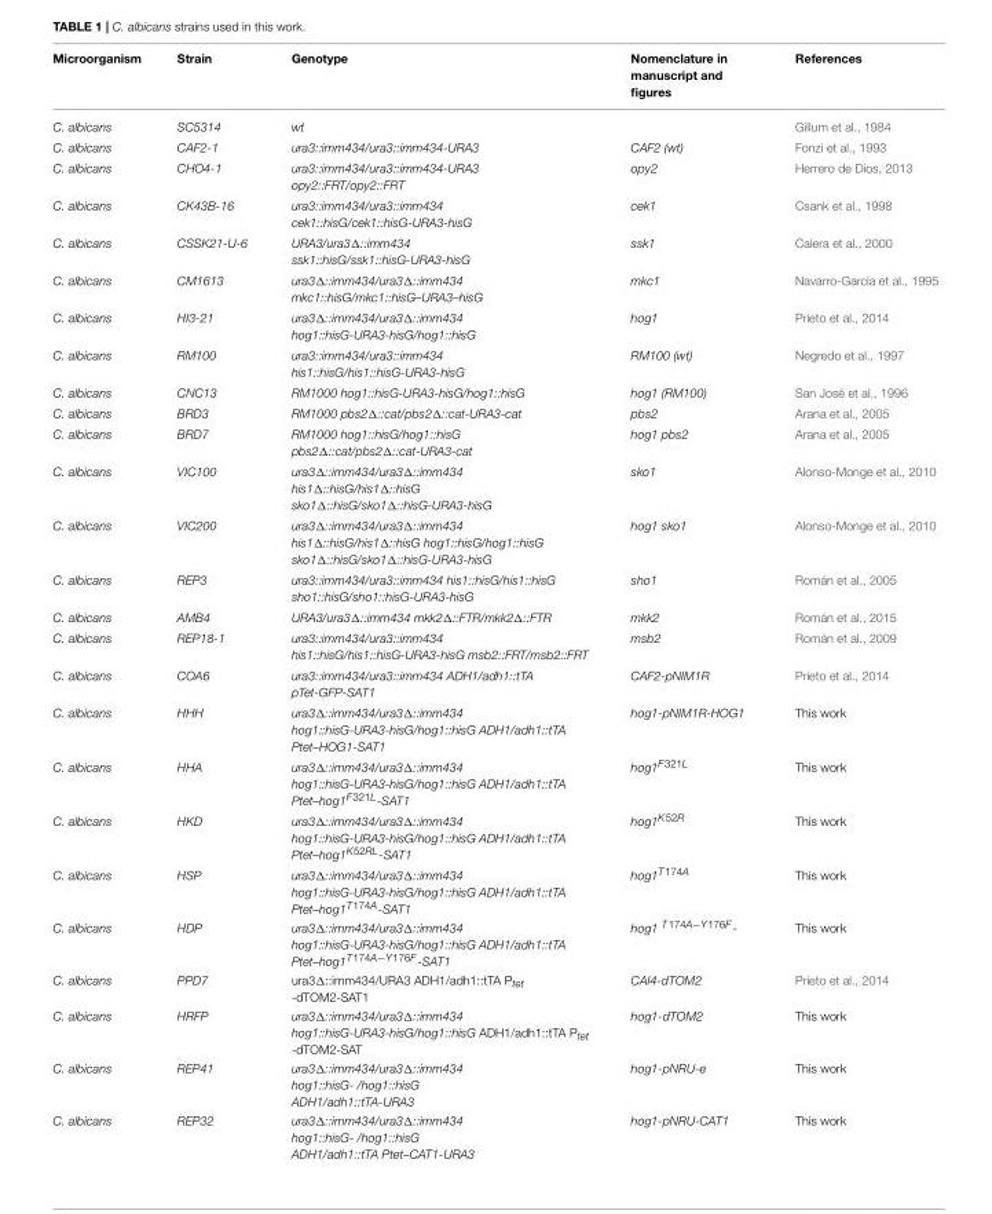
<table><thead><tr><td>Microorganism</td><td>Strain</td><td>Genotype</td><td>Nomenclature in manuscript and figures</td><td>References</td></tr></thead><tbody><tr><td>C. albicans</td><td>SC5314</td><td>wt</td><td></td><td>Gillum et al., 1984</td></tr><tr><td>C. albicans</td><td>CAF2-1</td><td>ura3::imm434/ura3::imm434-URA3</td><td>CAF2 (wt)</td><td>Fonzi et al., 1993</td></tr><tr><td>C. albicans</td><td>CHO4-1</td><td>ura3::imm434/ura3::imm434-URA3 opy2::FRT/opy2::FRT</td><td>opy2</td><td>Herrero de Dios, 2013</td></tr><tr><td>C. albicans</td><td>CK43B-16</td><td>ura3::imm434/ura3::imm434 cek1::hisG/cek1::hisG-URA3-hisG</td><td>cek1</td><td>Csank et al., 1998</td></tr><tr><td>C. albicans</td><td>CSSK21-U-6</td><td>URA3/ura3Δ::imm434 ssk1::hisG/ssk1::hisG-URA3-hisG</td><td>ssk1</td><td>Calera et al., 2000</td></tr><tr><td>C. albicans</td><td>CM1613</td><td>ura3Δ::imm434/ura3Δ::imm434 mkc1::hisG/mkc1::hisG–URA3–hisG</td><td>mkc1</td><td>Navarro-García et al., 1995</td></tr><tr><td>C. albicans</td><td>HI3-21</td><td>ura3Δ::imm434/ura3Δ::imm434 hog1::hisG-URA3-hisG/hog1::hisG</td><td>hog1</td><td>Prieto et al., 2014</td></tr><tr><td>C. albicans</td><td>RM100</td><td>ura3::imm434/ura3::imm434 his1::hisG/his1::hisG-URA3-hisG</td><td>RM100 (wt)</td><td>Negredo et al., 1997</td></tr><tr><td>C. albicans</td><td>CNC13</td><td>RM1000 hog1::hisG-URA3-hisG/hog1::hisG</td><td>hog1 (RM100)</td><td>San José et al., 1996</td></tr><tr><td>C. albicans</td><td>BRD3</td><td>RM1000 pbs2Δ::cat/pbs2Δ::cat-URA3-cat</td><td>pbs2</td><td>Arana et al., 2005</td></tr><tr><td>C. albicans</td><td>BRD7</td><td>RM1000 hog1::hisG/hog1::hisG pbs2Δ::cat/pbs2Δ::cat-URA3-cat</td><td>hog1 pbs2</td><td>Arana et al., 2005</td></tr><tr><td>C. albicans</td><td>VIC100</td><td>ura3Δ::imm434/ura3Δ::imm434 his1Δ::hisG/his1Δ::hisG sko1Δ::hisG/sko1Δ::hisG-URA3-hisG</td><td>sko1</td><td>Alonso-Monge et al., 2010</td></tr><tr><td>C. albicans</td><td>VIC200</td><td>ura3Δ::imm434/ura3Δ::imm434 his1Δ::hisG/his1Δ::hisG hog1::hisG/hog1::hisG sko1Δ::hisG/sko1Δ::hisG-URA3-hisG</td><td>hog1 sko1</td><td>Alonso-Monge et al., 2010</td></tr><tr><td>C. albicans</td><td>REP3</td><td>ura3::imm434/ura3::imm434 his1::hisG/his1::hisG sho1::hisG/sho1::hisG-URA3-hisG</td><td>sho1</td><td>Román et al., 2005</td></tr><tr><td>C. albicans</td><td>AMB4</td><td>URA3/ura3Δ::imm434 mkk2Δ::FTR/mkk2Δ::FTR</td><td>mkk2</td><td>Román et al., 2015</td></tr><tr><td>C. albicans</td><td>REP18-1</td><td>ura3::imm434/ura3::imm434 his1::hisG/his1::hisG-URA3-hisG msb2::FRT/msb2::FRT</td><td>msb2</td><td>Román et al., 2009</td></tr><tr><td>C. albicans</td><td>COA6</td><td>ura3::imm434/ura3::imm434 ADH1/adh1::tTA pTet-GFP-SAT1</td><td>CAF2-pNIM1R</td><td>Prieto et al., 2014</td></tr><tr><td>C. albicans</td><td>HHH</td><td>ura3Δ::imm434/ura3Δ::imm434 hog1::hisG-URA3-hisG/hog1::hisG ADH1/adh1::tTA Ptet–HOG1-SAT1</td><td>hog1-pNIM1R-HOG1</td><td>This work</td></tr><tr><td>C. albicans</td><td>HHA</td><td>ura3Δ::imm434/ura3Δ::imm434 hog1::hisG-URA3-hisG/hog1::hisG ADH1/adh1::tTA Ptet–hog1F321L-SAT1</td><td>hog1F321L</td><td>This work</td></tr><tr><td>C. albicans</td><td>HKD</td><td>ura3Δ::imm434/ura3Δ::imm434 hog1::hisG-URA3-hisG/hog1::hisG ADH1/adh1::tTA Ptet–hog1K52RL-SAT1</td><td>hog1K52R</td><td>This work</td></tr><tr><td>C. albicans</td><td>HSP</td><td>ura3Δ::imm434/ura3Δ::imm434 hog1::hisG-URA3-hisG/hog1::hisG ADH1/adh1::tTA Ptet–hog1T174A-SAT1</td><td>hog1T174A</td><td>This work</td></tr><tr><td>C. albicans</td><td>HDP</td><td>ura3Δ::imm434/ura3Δ::imm434 hog1::hisG-URA3-hisG/hog1::hisG ADH1/adh1::tTA Ptet–hog1T174A−Y176F-SAT1</td><td>hog1 T174A−Y176F-</td><td>This work</td></tr><tr><td>C. albicans</td><td>PPD7</td><td>ura3Δ::imm434/URA3 ADH1/adh1::tTA P<sub>tet</sub> -dTOM2-SAT1</td><td>CAI4-dTOM2</td><td>Prieto et al., 2014</td></tr><tr><td>C. albicans</td><td>HRFP</td><td>ura3Δ::imm434/ura3Δ::imm434 hog1::hisG-URA3-hisG/hog1::hisG ADH1/adh1::tTA P<sub>tet</sub> -dTOM2-SAT</td><td>hog1-dTOM2</td><td>This work</td></tr><tr><td>C. albicans</td><td>REP41</td><td>ura3Δ::imm434/ura3Δ::imm434 hog1::hisG- /hog1::hisG ADH1/adh1::tTA-URA3</td><td>hog1-pNRU-e</td><td>This work</td></tr><tr><td>C. albicans</td><td>REP32</td><td>ura3Δ::imm434/ura3Δ::imm434 hog1::hisG- /hog1::hisG ADH1/adh1::tTA Ptet–CAT1-URA3</td><td>hog1-pNRU-CAT1</td><td>This work</td></tr></tbody></table>